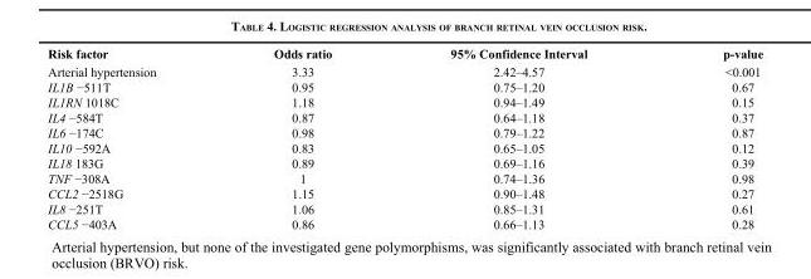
<table><thead><tr><td>Risk factor</td><td>Odds ratio</td><td>95% Confidence Interval</td><td>p-value</td></tr></thead><tbody><tr><td>Arterial hypertension</td><td>3.33</td><td>2.42–4.57</td><td>&lt;0.001</td></tr><tr><td>IL1B −511T</td><td>0.95</td><td>0.75–1.20</td><td>0.67</td></tr><tr><td>IL1RN 1018C</td><td>1.18</td><td>0.94–1.49</td><td>0.15</td></tr><tr><td>IL4 −584T</td><td>0.87</td><td>0.64–1.18</td><td>0.37</td></tr><tr><td>IL6 −174C</td><td>0.98</td><td>0.79–1.22</td><td>0.87</td></tr><tr><td>IL10 −592A</td><td>0.83</td><td>0.65–1.05</td><td>0.12</td></tr><tr><td>IL18 183G</td><td>0.89</td><td>0.69–1.16</td><td>0.39</td></tr><tr><td>TNF −308A</td><td>1</td><td>0.74–1.36</td><td>0.98</td></tr><tr><td>CCL2 −2518G</td><td>1.15</td><td>0.90–1.48</td><td>0.27</td></tr><tr><td>IL8 −251T</td><td>1.06</td><td>0.85–1.31</td><td>0.61</td></tr><tr><td>CCL5 −403A</td><td>0.86</td><td>0.66–1.13</td><td>0.28</td></tr></tbody></table>